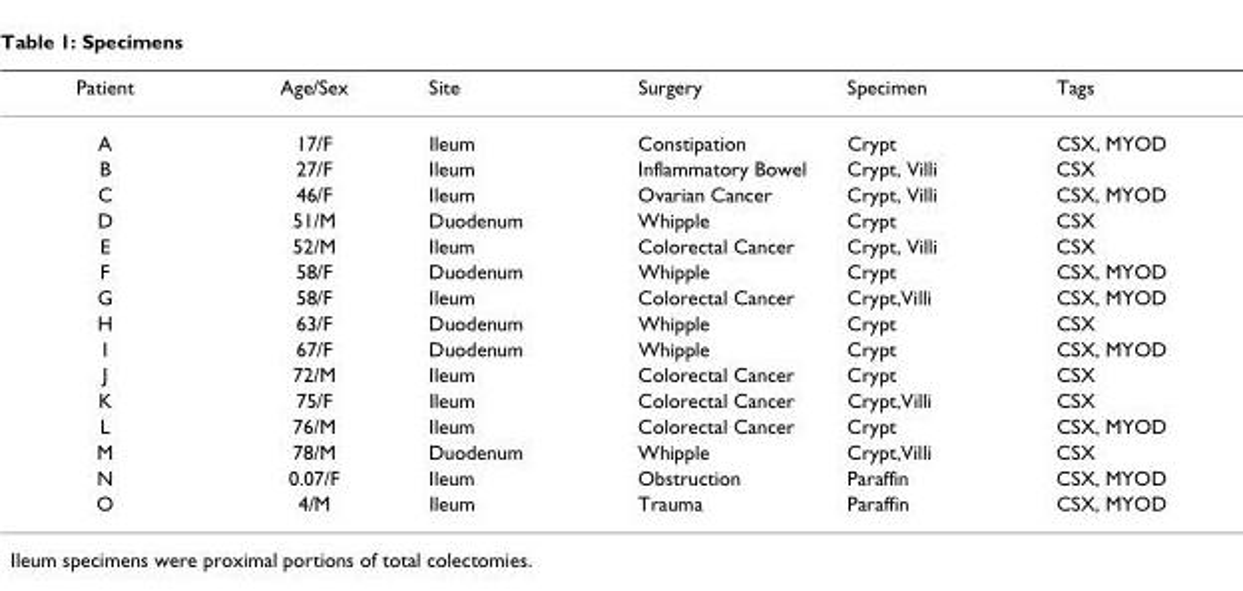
<table><thead><tr><td>Patient</td><td>Age/Sex</td><td>Site</td><td>Surgery</td><td>Specimen</td><td>Tags</td></tr></thead><tbody><tr><td>A</td><td>17/F</td><td>Ileum</td><td>Constipation</td><td>Crypt</td><td>CSX, MYOD</td></tr><tr><td>B</td><td>27/F</td><td>Ileum</td><td>Inflammatory Bowel</td><td>Crypt, Villi</td><td>CSX</td></tr><tr><td>C</td><td>46/F</td><td>Ileum</td><td>Ovarian Cancer</td><td>Crypt, Villi</td><td>CSX, MYOD</td></tr><tr><td>D</td><td>51/M</td><td>Duodenum</td><td>Whipple</td><td>Crypt</td><td>CSX</td></tr><tr><td>E</td><td>52/M</td><td>Ileum</td><td>Colorectal Cancer</td><td>Crypt, Villi</td><td>CSX</td></tr><tr><td>F</td><td>58/F</td><td>Duodenum</td><td>Whipple</td><td>Crypt</td><td>CSX, MYOD</td></tr><tr><td>G</td><td>58/F</td><td>Ileum</td><td>Colorectal Cancer</td><td>Crypt,Villi</td><td>CSX, MYOD</td></tr><tr><td>H</td><td>63/F</td><td>Duodenum</td><td>Whipple</td><td>Crypt</td><td>CSX</td></tr><tr><td>I</td><td>67/F</td><td>Duodenum</td><td>Whipple</td><td>Crypt</td><td>CSX, MYOD</td></tr><tr><td>J</td><td>72/M</td><td>Ileum</td><td>Colorectal Cancer</td><td>Crypt</td><td>CSX</td></tr><tr><td>K</td><td>75/F</td><td>Ileum</td><td>Colorectal Cancer</td><td>Crypt,Villi</td><td>CSX</td></tr><tr><td>L</td><td>76/M</td><td>Ileum</td><td>Colorectal Cancer</td><td>Crypt</td><td>CSX, MYOD</td></tr><tr><td>M</td><td>78/M</td><td>Duodenum</td><td>Whipple</td><td>Crypt,Villi</td><td>CSX</td></tr><tr><td>N</td><td>0.07/F</td><td>Ileum</td><td>Obstruction</td><td>Paraffin</td><td>CSX, MYOD</td></tr><tr><td>O</td><td>4/M</td><td>Ileum</td><td>Trauma</td><td>Paraffin</td><td>CSX, MYOD</td></tr></tbody></table>